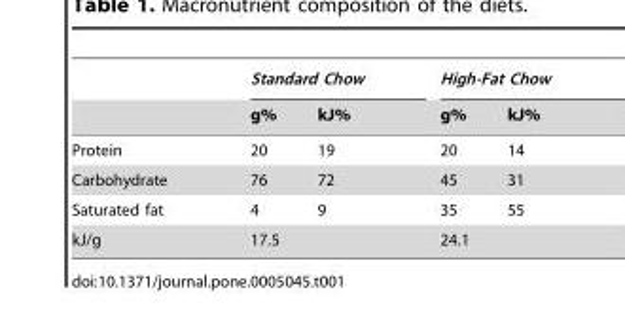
<table><thead><tr><td rowspan="2"></td><td colspan="2">Standard Chow</td><td colspan="2">High-Fat Chow</td></tr><tr><td>g%</td><td>kJ%</td><td>g%</td><td>kJ%</td></tr></thead><tbody><tr><td>Protein</td><td>20</td><td>19</td><td>20</td><td>14</td></tr><tr><td>Carbohydrate</td><td>76</td><td>72</td><td>45</td><td>31</td></tr><tr><td>Saturated fat</td><td>4</td><td>9</td><td>35</td><td>55</td></tr><tr><td>kJ/g</td><td colspan="2">17.5</td><td colspan="2">24.1</td></tr></tbody></table>